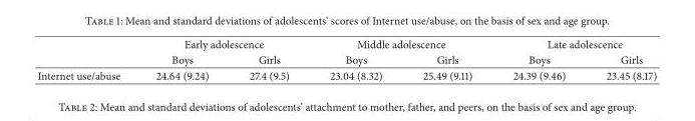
<table><thead><tr><td rowspan="2"></td><td colspan="2">Early adolescence</td><td colspan="2">Middle adolescence</td><td colspan="2">Late adolescence</td></tr><tr><td>Boys</td><td>Girls</td><td>Boys</td><td>Girls</td><td>Boys</td><td>Girls</td></tr></thead><tbody><tr><td>Internet use/abuse</td><td>24.64 (9.24)</td><td>27.4 (9.5)</td><td>23.04 (8.32)</td><td>25.49 (9.11)</td><td>24.39 (9.46)</td><td>23.45 (8.17)</td></tr></tbody></table>